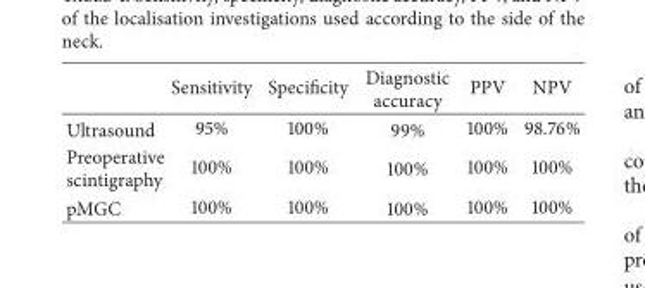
<table><thead><tr><td></td><td>Sensitivity</td><td>Specificity</td><td>Diagnostic accuracy</td><td>PPV</td><td>NPV</td></tr></thead><tbody><tr><td>Ultrasound</td><td>95%</td><td>100%</td><td>99%</td><td>100%</td><td>98.76%</td></tr><tr><td>Preoperative scintigraphy</td><td>100%</td><td>100%</td><td>100%</td><td>100%</td><td>100%</td></tr><tr><td>pMGC</td><td>100%</td><td>100%</td><td>100%</td><td>100%</td><td>100%</td></tr></tbody></table>